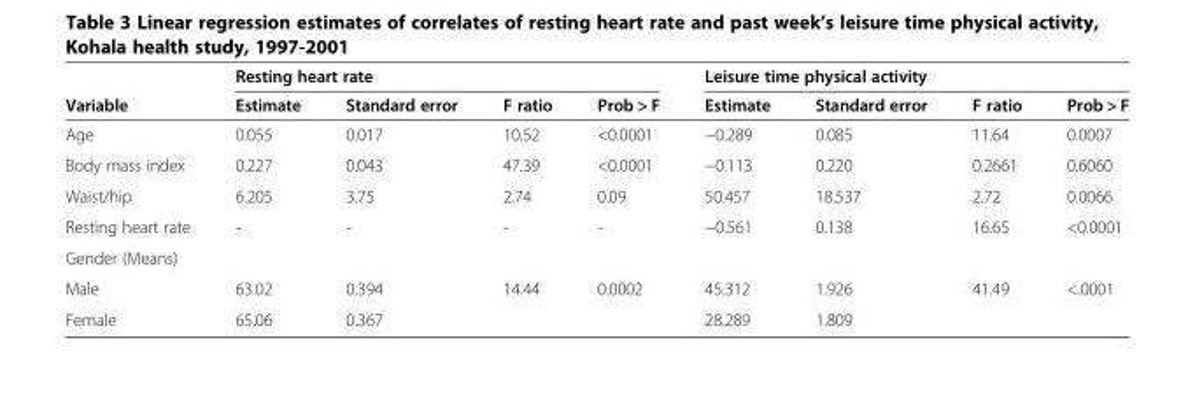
<table><thead><tr><td rowspan="2">Variable</td><td colspan="4">Resting heart rate</td><td colspan="4">Leisure time physical activity</td></tr><tr><td>Estimate</td><td>Standard error</td><td>F ratio</td><td>Prob &gt; F</td><td>Estimate</td><td>Standard error</td><td>F ratio</td><td>Prob &gt; F</td></tr></thead><tbody><tr><td>Age</td><td>0.055</td><td>0.017</td><td>10.52</td><td>&lt;0.0001</td><td>−0.289</td><td>0.085</td><td>11.64</td><td>0.0007</td></tr><tr><td>Body mass index</td><td>0.227</td><td>0.043</td><td>47.39</td><td>&lt;0.0001</td><td>−0.113</td><td>0.220</td><td>0.2661</td><td>0.6060</td></tr><tr><td>Waist/hip</td><td>6.205</td><td>3.75</td><td>2.74</td><td>0.09</td><td>50.457</td><td>18.537</td><td>2.72</td><td>0.0066</td></tr><tr><td>Resting heart rate</td><td>-</td><td>-</td><td>-</td><td>-</td><td>−0.561</td><td>0.138</td><td>16.65</td><td>&lt;0.0001</td></tr><tr><td colspan="9">Gender (Means)</td></tr><tr><td>Male</td><td>63.02</td><td>0.394</td><td>14.44</td><td>0.0002</td><td>45.312</td><td>1.926</td><td>41.49</td><td>&lt;.0001</td></tr><tr><td>Female</td><td>65.06</td><td>0.367</td><td></td><td></td><td>28.289</td><td>1.809</td><td></td><td></td></tr></tbody></table>